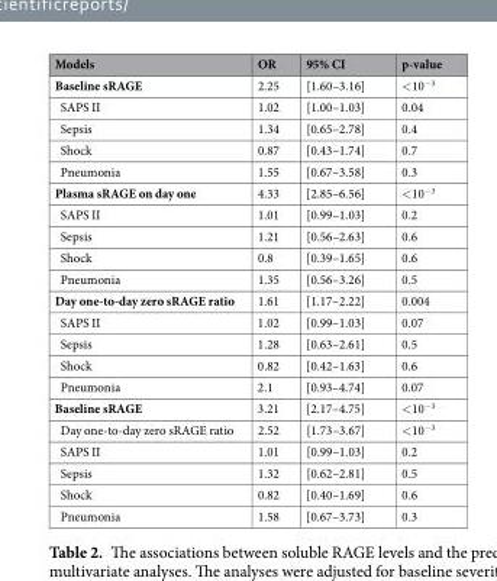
<table><thead><tr><td>Models</td><td>OR</td><td>95% CI</td><td>p-value</td></tr></thead><tbody><tr><td>Baseline sRAGE</td><td>2.25</td><td>[1.60–3.16]</td><td>&lt;10<sup>−3</sup></td></tr><tr><td>SAPS II</td><td>1.02</td><td>[1.00–1.03]</td><td>0.04</td></tr><tr><td>Sepsis</td><td>1.34</td><td>[0.65–2.78]</td><td>0.4</td></tr><tr><td>Shock</td><td>0.87</td><td>[0.43–1.74]</td><td>0.7</td></tr><tr><td>Pneumonia</td><td>1.55</td><td>[0.67–3.58]</td><td>0.3</td></tr><tr><td>Plasma sRAGE on day one</td><td>4.33</td><td>[2.85–6.56]</td><td>&lt;10<sup>−3</sup></td></tr><tr><td>SAPS II</td><td>1.01</td><td>[0.99–1.03]</td><td>0.2</td></tr><tr><td>Sepsis</td><td>1.21</td><td>[0.56–2.63]</td><td>0.6</td></tr><tr><td>Shock</td><td>0.8</td><td>[0.39–1.65]</td><td>0.6</td></tr><tr><td>Pneumonia</td><td>1.35</td><td>[0.56–3.26]</td><td>0.5</td></tr><tr><td>Day one-to-day zero sRAGE ratio</td><td>1.61</td><td>[1.17–2.22]</td><td>0.004</td></tr><tr><td>SAPS II</td><td>1.02</td><td>[0.99–1.03]</td><td>0.07</td></tr><tr><td>Sepsis</td><td>1.28</td><td>[0.63–2.61]</td><td>0.5</td></tr><tr><td>Shock</td><td>0.82</td><td>[0.42–1.63]</td><td>0.6</td></tr><tr><td>Pneumonia</td><td>2.1</td><td>[0.93–4.74]</td><td>0.07</td></tr><tr><td>Baseline sRAGE</td><td>3.21</td><td>[2.17–4.75]</td><td>&lt;10<sup>−3</sup></td></tr><tr><td>Day one-to-day zero sRAGE ratio</td><td>2.52</td><td>[1.73–3.67]</td><td>&lt;10<sup>−3</sup></td></tr><tr><td>SAPS II</td><td>1.01</td><td>[0.99–1.03]</td><td>0.2</td></tr><tr><td>Sepsis</td><td>1.32</td><td>[0.62–2.81]</td><td>0.5</td></tr><tr><td>Shock</td><td>0.82</td><td>[0.40–1.69]</td><td>0.6</td></tr><tr><td>Pneumonia</td><td>1.58</td><td>[0.67–3.73]</td><td>0.3</td></tr></tbody></table>